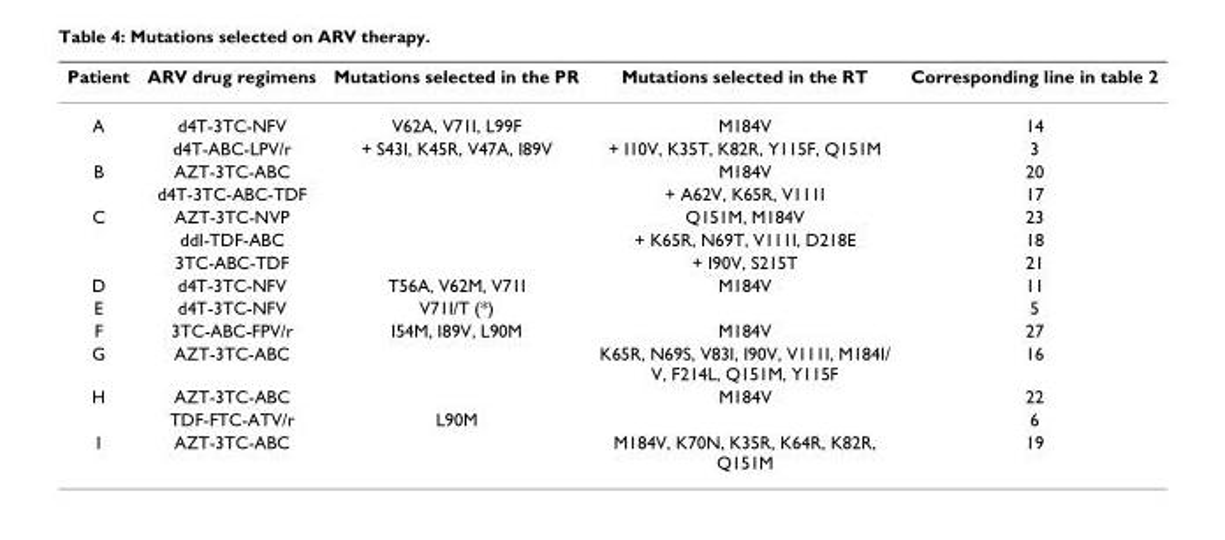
<table><thead><tr><td>Patient</td><td>ARV drug regimens</td><td>Mutations selected in the PR</td><td>Mutations selected in the RT</td><td>Corresponding line in table 2</td></tr></thead><tbody><tr><td rowspan="2">A</td><td>d4T-3TC-NFV</td><td>V62A, V71I, L99F</td><td>M184V</td><td>14</td></tr><tr><td>d4T-ABC-LPV/r</td><td>+ S43I, K45R, V47A, I89V</td><td>+ I10V, K35T, K82R, Y115F, Q151M</td><td>3</td></tr><tr><td rowspan="2">B</td><td>AZT-3TC-ABC</td><td></td><td>M184V</td><td>20</td></tr><tr><td>d4T-3TC-ABC-TDF</td><td></td><td>+ A62V, K65R, V111I</td><td>17</td></tr><tr><td rowspan="3">C</td><td>AZT-3TC-NVP</td><td></td><td>Q151M, M184V</td><td>23</td></tr><tr><td>ddI-TDF-ABC</td><td></td><td>+ K65R, N69T, V111I, D218E</td><td>18</td></tr><tr><td>3TC-ABC-TDF</td><td></td><td>+ I90V, S215T</td><td>21</td></tr><tr><td>D</td><td>d4T-3TC-NFV</td><td>T56A, V62M, V71I</td><td>M184V</td><td>11</td></tr><tr><td>E</td><td>d4T-3TC-NFV</td><td>V71I/T (*)</td><td></td><td>5</td></tr><tr><td>F</td><td>3TC-ABC-FPV/r</td><td>I54M, I89V, L90M</td><td>M184V</td><td>27</td></tr><tr><td>G</td><td>AZT-3TC-ABC</td><td></td><td>K65R, N69S, V83I, I90V, V111I, M184I/ V, F214L, Q151M, Y115F</td><td>16</td></tr><tr><td rowspan="2">H</td><td>AZT-3TC-ABC</td><td></td><td>M184V</td><td>22</td></tr><tr><td>TDF-FTC-ATV/r</td><td>L90M</td><td></td><td>6</td></tr><tr><td>I</td><td>AZT-3TC-ABC</td><td></td><td>M184V, K70N, K35R, K64R, K82R, Q151M</td><td>19</td></tr></tbody></table>